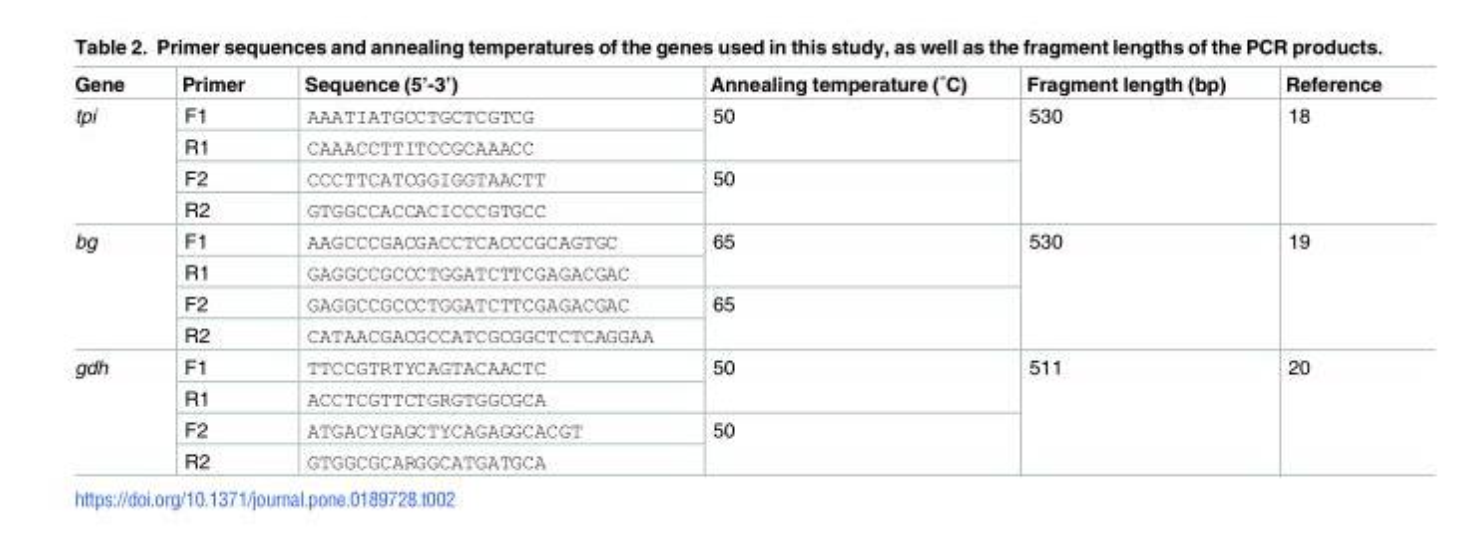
<table><thead><tr><td>Gene</td><td>Primer</td><td>Sequence (5’-3’)</td><td>Annealing temperature (˚C)</td><td>Fragment length (bp)</td><td>Reference</td></tr></thead><tbody><tr><td rowspan="4">tpi</td><td>F1</td><td>AAATIATGCCTGCTCGTCG</td><td rowspan="2">50</td><td rowspan="4">530</td><td rowspan="4">18</td></tr><tr><td>R1</td><td>CAAACCTTITCCGCAAACC</td></tr><tr><td>F2</td><td>CCCTTCATCGGIGGTAACTT</td><td rowspan="2">50</td></tr><tr><td>R2</td><td>GTGGCCACCACICCCGTGCC</td></tr><tr><td rowspan="4">bg</td><td>F1</td><td>AAGCCCGACGACCTCACCCGCAGTGC</td><td rowspan="2">65</td><td rowspan="4">530</td><td rowspan="4">19</td></tr><tr><td>R1</td><td>GAGGCCGCCCTGGATCTTCGAGACGAC</td></tr><tr><td>F2</td><td>GAGGCCGCCCTGGATCTTCGAGACGAC</td><td rowspan="2">65</td></tr><tr><td>R2</td><td>CATAACGACGCCATCGCGGCTCTCAGGAA</td></tr><tr><td rowspan="4">gdh</td><td>F1</td><td>TTCCGTRTYCAGTACAACTC</td><td rowspan="2">50</td><td rowspan="4">511</td><td rowspan="4">20</td></tr><tr><td>R1</td><td>ACCTCGTTCTGRGTGGCGCA</td></tr><tr><td>F2</td><td>ATGACYGAGCTYCAGAGGCACGT</td><td rowspan="2">50</td></tr><tr><td>R2</td><td>GTGGCGCARGGCATGATGCA</td></tr></tbody></table>